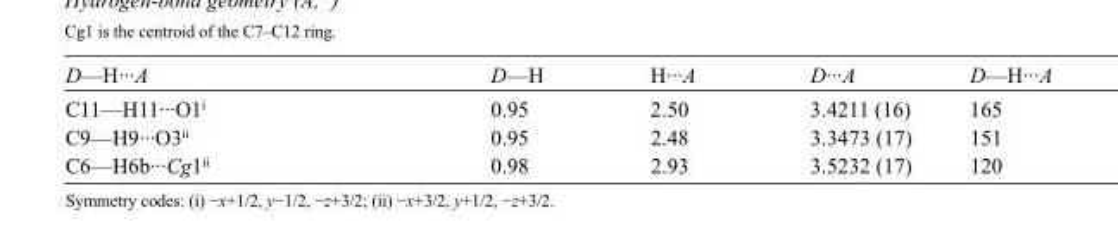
<table><tbody><tr><td>D—H···A</td><td>D—H</td><td>H···A</td><td>D···A</td><td>D—H···A</td></tr><tr><td>C11—H11···O1<sup>i</sup></td><td>0.95</td><td>2.50</td><td>3.4211 (16)</td><td>165</td></tr><tr><td>C9—H9···O3<sup>ii</sup></td><td>0.95</td><td>2.48</td><td>3.3473 (17)</td><td>151</td></tr><tr><td>C6—H6b···Cg1<sup>ii</sup></td><td>0.98</td><td>2.93</td><td>3.5232 (17)</td><td>120</td></tr></tbody></table>